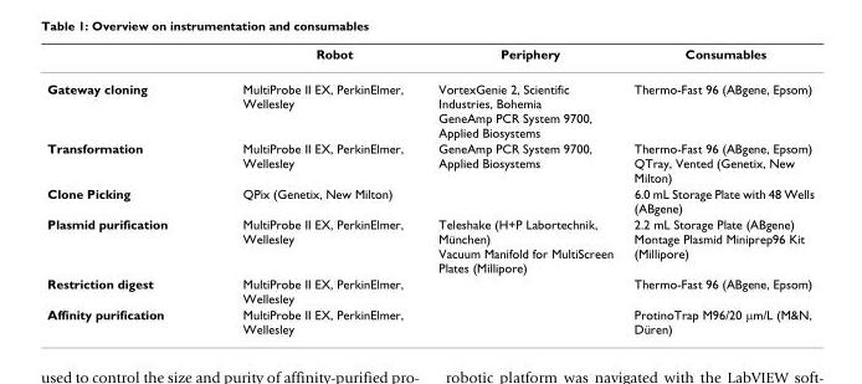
<table><thead><tr><td></td><td>Robot</td><td>Periphery</td><td>Consumables</td></tr></thead><tbody><tr><td>Gateway cloning</td><td>MultiProbe II EX, PerkinElmer, Wellesley</td><td>VortexGenie 2, Scientific Industries, Bohemia GeneAmp PCR System 9700, Applied Biosystems</td><td>Thermo-Fast 96 (ABgene, Epsom)</td></tr><tr><td>Transformation</td><td>MultiProbe II EX, PerkinElmer, Wellesley</td><td>GeneAmp PCR System 9700, Applied Biosystems</td><td>Thermo-Fast 96 (ABgene, Epsom) QTray, Vented (Genetix, New Milton)</td></tr><tr><td>Clone Picking</td><td>QPix (Genetix, New Milton)</td><td></td><td>6.0 mL Storage Plate with 48 Wells (ABgene)</td></tr><tr><td>Plasmid purification</td><td>MultiProbe II EX, PerkinElmer, Wellesley</td><td>Teleshake (H+P Labortechnik, München) Vacuum Manifold for MultiScreen Plates (Millipore)</td><td>2.2 mL Storage Plate (ABgene) Montage Plasmid Miniprep96 Kit (Millipore)</td></tr><tr><td>Restriction digest</td><td>MultiProbe II EX, PerkinElmer, Wellesley</td><td></td><td>Thermo-Fast 96 (ABgene, Epsom)</td></tr><tr><td>Affinity purification</td><td>MultiProbe II EX, PerkinElmer, Wellesley</td><td></td><td>ProtinoTrap M96/20 µm/L (M&amp;N, Düren)</td></tr></tbody></table>